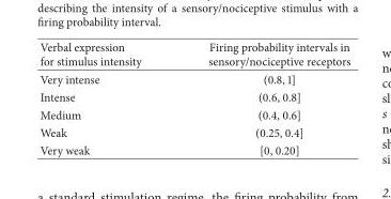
<table><thead><tr><td>Verbal expression for stimulus intensity</td><td>Firing probability intervals in sensory/nociceptive receptors</td></tr></thead><tbody><tr><td>Very intense</td><td>(0.8, 1]</td></tr><tr><td>Intense</td><td>(0.6, 0.8]</td></tr><tr><td>Medium</td><td>(0.4, 0.6]</td></tr><tr><td>Weak</td><td>(0.25, 0.4]</td></tr><tr><td>Very weak</td><td>[0, 0.20]</td></tr></tbody></table>